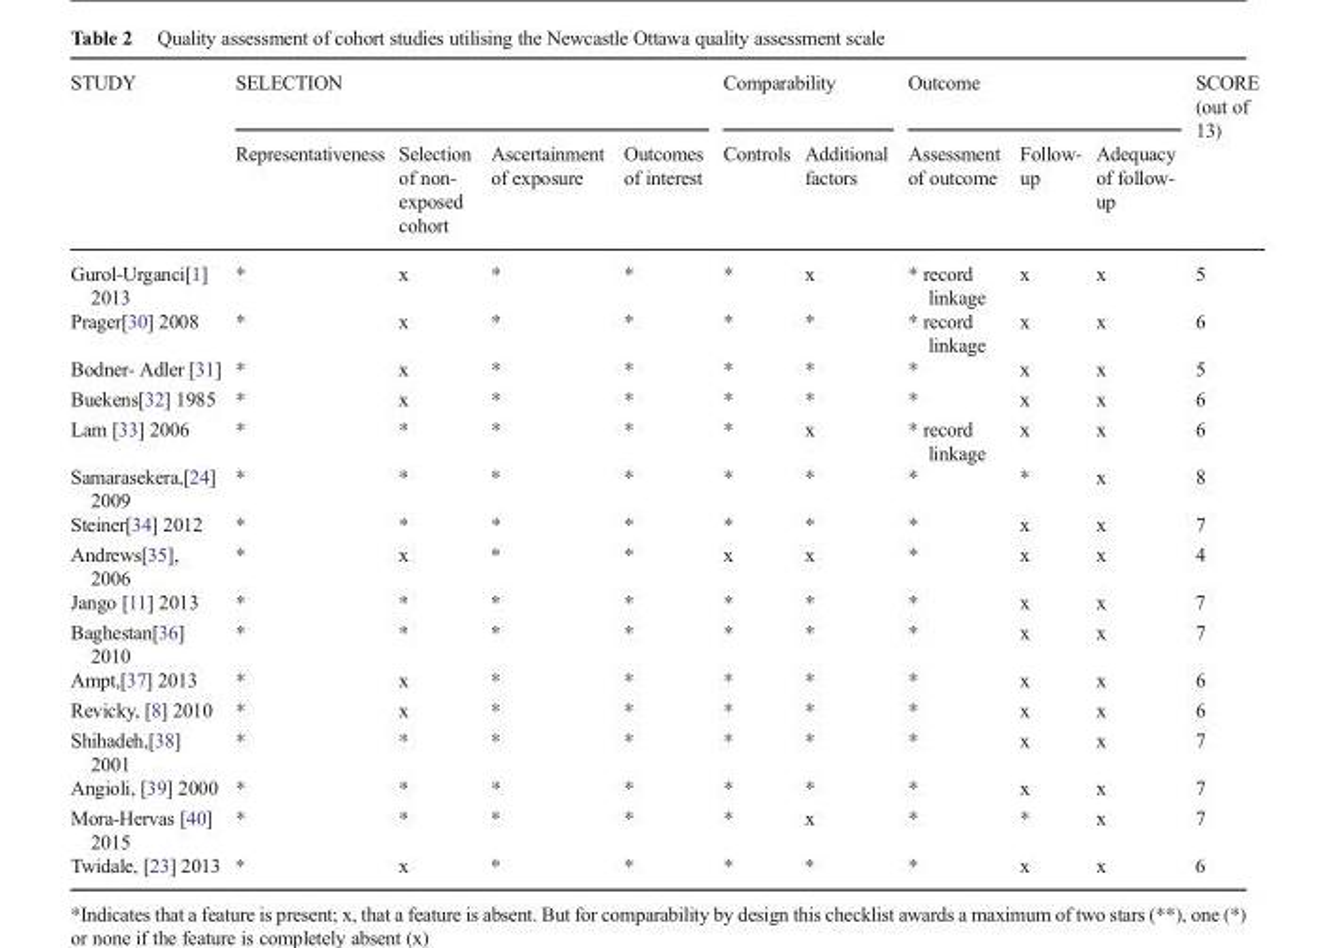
<table><thead><tr><td rowspan="2">STUDY</td><td colspan="4">SELECTION</td><td colspan="2">Comparability</td><td colspan="3">Outcome</td><td rowspan="2">SCORE (out of 13)</td></tr><tr><td>Representativeness</td><td>Selection of non- exposed cohort</td><td>Ascertainment of exposure</td><td>Outcomes of interest</td><td>Controls</td><td>Additional factors</td><td>Assessment of outcome</td><td>Follow- up</td><td>Adequacy of follow- up</td></tr></thead><tbody><tr><td>Gurol-Urganci[1] 2013</td><td>*</td><td>x</td><td>*</td><td>*</td><td>*</td><td>x</td><td>* record linkage</td><td>x</td><td>x</td><td>5</td></tr><tr><td>Prager[30] 2008</td><td>*</td><td>x</td><td>*</td><td>*</td><td>*</td><td>*</td><td>* record linkage</td><td>x</td><td>x</td><td>6</td></tr><tr><td>Bodner- Adler [31]</td><td>*</td><td>x</td><td>*</td><td>*</td><td>*</td><td>*</td><td>*</td><td>x</td><td>x</td><td>5</td></tr><tr><td>Buekens[32] 1985</td><td>*</td><td>x</td><td>*</td><td>*</td><td>*</td><td>*</td><td>*</td><td>x</td><td>x</td><td>6</td></tr><tr><td>Lam [33] 2006</td><td>*</td><td>*</td><td>*</td><td>*</td><td>*</td><td>x</td><td>* record linkage</td><td>x</td><td>x</td><td>6</td></tr><tr><td>Samarasekera,[24] 2009</td><td>*</td><td>*</td><td>*</td><td>*</td><td>*</td><td>*</td><td>*</td><td>*</td><td>x</td><td>8</td></tr><tr><td>Steiner[34] 2012</td><td>*</td><td>*</td><td>*</td><td>*</td><td>*</td><td>*</td><td>*</td><td>x</td><td>x</td><td>7</td></tr><tr><td>Andrews[35], 2006</td><td>*</td><td>x</td><td>*</td><td>*</td><td>x</td><td>x</td><td>*</td><td>x</td><td>x</td><td>4</td></tr><tr><td>Jango [11] 2013</td><td>*</td><td>*</td><td>*</td><td>*</td><td>*</td><td>*</td><td>*</td><td>x</td><td>x</td><td>7</td></tr><tr><td>Baghestan[36] 2010</td><td>*</td><td>*</td><td>*</td><td>*</td><td>*</td><td>*</td><td>*</td><td>x</td><td>x</td><td>7</td></tr><tr><td>Ampt,[37] 2013</td><td>*</td><td>x</td><td>*</td><td>*</td><td>*</td><td>*</td><td>*</td><td>x</td><td>x</td><td>6</td></tr><tr><td>Revicky, [8] 2010</td><td>*</td><td>x</td><td>*</td><td>*</td><td>*</td><td>*</td><td>*</td><td>x</td><td>x</td><td>6</td></tr><tr><td>Shihadeh,[38] 2001</td><td>*</td><td>*</td><td>*</td><td>*</td><td>*</td><td>*</td><td>*</td><td>x</td><td>x</td><td>7</td></tr><tr><td>Angioli, [39] 2000</td><td>*</td><td>*</td><td>*</td><td>*</td><td>*</td><td>*</td><td>*</td><td>x</td><td>x</td><td>7</td></tr><tr><td>Mora-Hervas [40] 2015</td><td>*</td><td>*</td><td>*</td><td>*</td><td>*</td><td>x</td><td>*</td><td>*</td><td>x</td><td>7</td></tr><tr><td>Twidale, [23] 2013</td><td>*</td><td>x</td><td>*</td><td>*</td><td>*</td><td>*</td><td>*</td><td>x</td><td>x</td><td>6</td></tr></tbody></table>